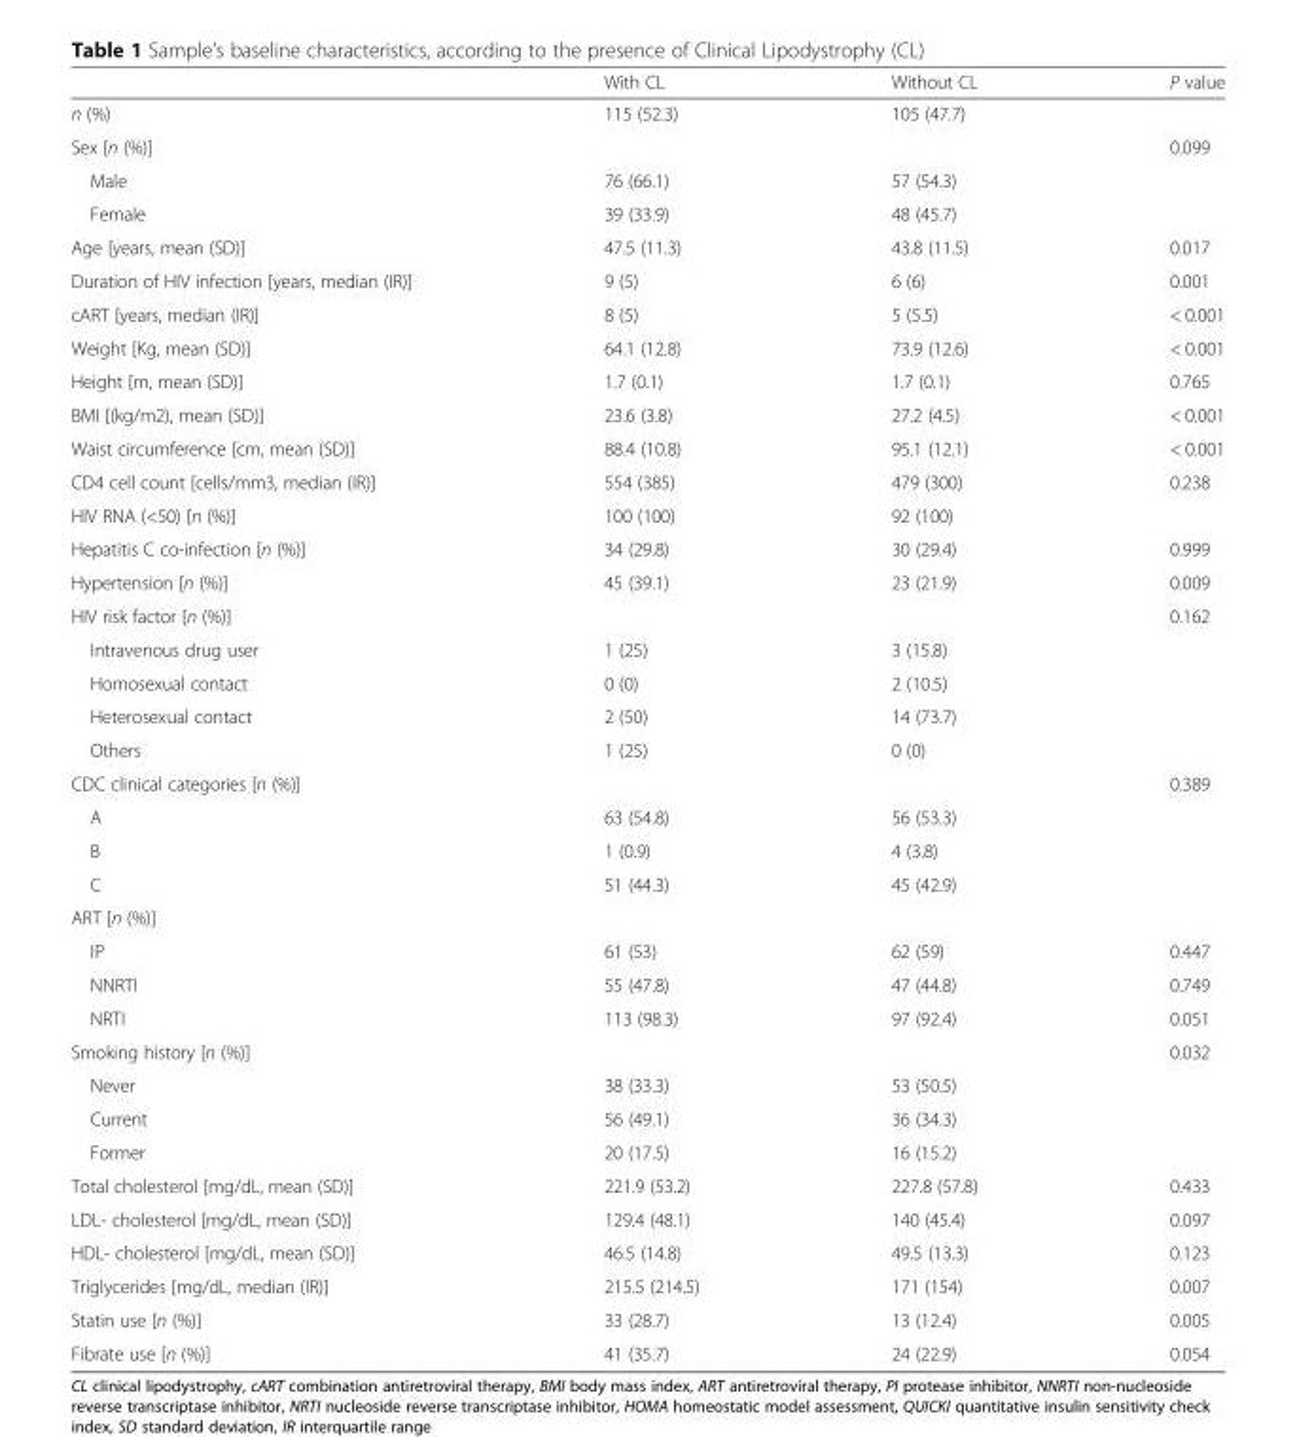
<table><thead><tr><td></td><td>With CL</td><td>Without CL</td><td>P value</td></tr></thead><tbody><tr><td>n (%)</td><td>115 (52.3)</td><td>105 (47.7)</td><td></td></tr><tr><td>Sex [n (%)]</td><td></td><td></td><td>0.099</td></tr><tr><td>Male</td><td>76 (66.1)</td><td>57 (54.3)</td><td></td></tr><tr><td>Female</td><td>39 (33.9)</td><td>48 (45.7)</td><td></td></tr><tr><td>Age [years, mean (SD)]</td><td>47.5 (11.3)</td><td>43.8 (11.5)</td><td>0.017</td></tr><tr><td>Duration of HIV infection [years, median (IR)]</td><td>9 (5)</td><td>6 (6)</td><td>0.001</td></tr><tr><td>cART [years, median (IR)]</td><td>8 (5)</td><td>5 (5.5)</td><td>&lt; 0.001</td></tr><tr><td>Weight [Kg, mean (SD)]</td><td>64.1 (12.8)</td><td>73.9 (12.6)</td><td>&lt; 0.001</td></tr><tr><td>Height [m, mean (SD)]</td><td>1.7 (0.1)</td><td>1.7 (0.1)</td><td>0.765</td></tr><tr><td>BMI [(kg/m2), mean (SD)]</td><td>23.6 (3.8)</td><td>27.2 (4.5)</td><td>&lt; 0.001</td></tr><tr><td>Waist circumference [cm, mean (SD)]</td><td>88.4 (10.8)</td><td>95.1 (12.1)</td><td>&lt; 0.001</td></tr><tr><td>CD4 cell count [cells/mm3, median (IR)]</td><td>554 (385)</td><td>479 (300)</td><td>0.238</td></tr><tr><td>HIV RNA (&lt;50) [n (%)]</td><td>100 (100)</td><td>92 (100)</td><td></td></tr><tr><td>Hepatitis C co-infection [n (%)]</td><td>34 (29.8)</td><td>30 (29.4)</td><td>0.999</td></tr><tr><td>Hypertension [n (%)]</td><td>45 (39.1)</td><td>23 (21.9)</td><td>0.009</td></tr><tr><td>HIV risk factor [n (%)]</td><td></td><td></td><td>0.162</td></tr><tr><td>Intravenous drug user</td><td>1 (25)</td><td>3 (15.8)</td><td></td></tr><tr><td>Homosexual contact</td><td>0 (0)</td><td>2 (10.5)</td><td></td></tr><tr><td>Heterosexual contact</td><td>2 (50)</td><td>14 (73.7)</td><td></td></tr><tr><td>Others</td><td>1 (25)</td><td>0 (0)</td><td></td></tr><tr><td>CDC clinical categories [n (%)]</td><td></td><td></td><td>0.389</td></tr><tr><td>A</td><td>63 (54.8)</td><td>56 (53.3)</td><td></td></tr><tr><td>B</td><td>1 (0.9)</td><td>4 (3.8)</td><td></td></tr><tr><td>C</td><td>51 (44.3)</td><td>45 (42.9)</td><td></td></tr><tr><td colspan="4">ART [n (%)]</td></tr><tr><td>IP</td><td>61 (53)</td><td>62 (59)</td><td>0.447</td></tr><tr><td>NNRTI</td><td>55 (47.8)</td><td>47 (44.8)</td><td>0.749</td></tr><tr><td>NRTI</td><td>113 (98.3)</td><td>97 (92.4)</td><td>0.051</td></tr><tr><td>Smoking history [n (%)]</td><td></td><td></td><td>0.032</td></tr><tr><td>Never</td><td>38 (33.3)</td><td>53 (50.5)</td><td></td></tr><tr><td>Current</td><td>56 (49.1)</td><td>36 (34.3)</td><td></td></tr><tr><td>Former</td><td>20 (17.5)</td><td>16 (15.2)</td><td></td></tr><tr><td>Total cholesterol [mg/dL, mean (SD)]</td><td>221.9 (53.2)</td><td>227.8 (57.8)</td><td>0.433</td></tr><tr><td>LDL- cholesterol [mg/dL, mean (SD)]</td><td>129.4 (48.1)</td><td>140 (45.4)</td><td>0.097</td></tr><tr><td>HDL- cholesterol [mg/dL, mean (SD)]</td><td>46.5 (14.8)</td><td>49.5 (13.3)</td><td>0.123</td></tr><tr><td>Triglycerides [mg/dL, median (IR)]</td><td>215.5 (214.5)</td><td>171 (154)</td><td>0.007</td></tr><tr><td>Statin use [n (%)]</td><td>33 (28.7)</td><td>13 (12.4)</td><td>0.005</td></tr><tr><td>Fibrate use [n (%)]</td><td>41 (35.7)</td><td>24 (22.9)</td><td>0.054</td></tr></tbody></table>